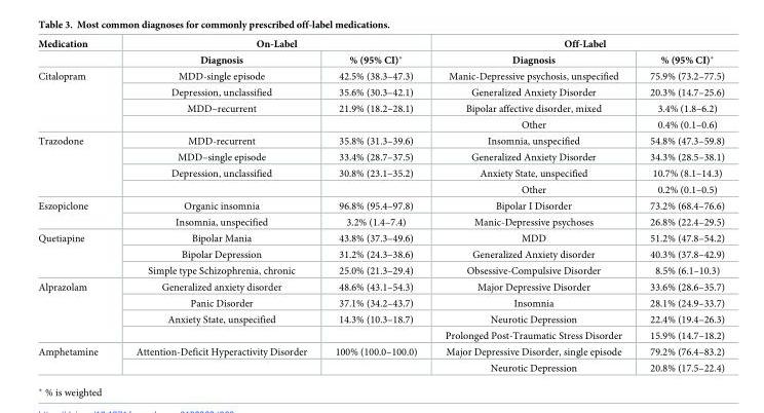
<table><thead><tr><td rowspan="2">Medication</td><td colspan="2">On-Label</td><td colspan="2">Off-Label</td></tr><tr><td>Diagnosis</td><td>% (95% CI)*</td><td>Diagnosis</td><td>% (95% CI)*</td></tr></thead><tbody><tr><td rowspan="4">Citalopram</td><td>MDD-single episode</td><td>42.5% (38.3–47.3)</td><td>Manic-Depressive psychosis, unspecified</td><td>75.9% (73.2–77.5)</td></tr><tr><td>Depression, unclassified</td><td>35.6% (30.3–42.1)</td><td>Generalized Anxiety Disorder</td><td>20.3% (14.7–25.6)</td></tr><tr><td>MDD–recurrent</td><td>21.9% (18.2–28.1)</td><td>Bipolar affective disorder, mixed</td><td>3.4% (1.8–6.2)</td></tr><tr><td></td><td></td><td>Other</td><td>0.4% (0.1–0.6)</td></tr><tr><td rowspan="4">Trazodone</td><td>MDD-recurrent</td><td>35.8% (31.3–39.6)</td><td>Insomnia, unspecified</td><td>54.8% (47.3–59.8)</td></tr><tr><td>MDD–single episode</td><td>33.4% (28.7–37.5)</td><td>Generalized Anxiety Disorder</td><td>34.3% (28.5–38.1)</td></tr><tr><td>Depression, unclassified</td><td>30.8% (23.1–35.2)</td><td>Anxiety State, unspecified</td><td>10.7% (8.1–14.3)</td></tr><tr><td></td><td></td><td>Other</td><td>0.2% (0.1–0.5)</td></tr><tr><td rowspan="2">Eszopiclone</td><td>Organic insomnia</td><td>96.8% (95.4–97.8)</td><td>Bipolar I Disorder</td><td>73.2% (68.4–76.6)</td></tr><tr><td>Insomnia, unspecified</td><td>3.2% (1.4–7.4)</td><td>Manic-Depressive psychoses</td><td>26.8% (22.4–29.5)</td></tr><tr><td rowspan="3">Quetiapine</td><td>Bipolar Mania</td><td>43.8% (37.3–49.6)</td><td>MDD</td><td>51.2% (47.8–54.2)</td></tr><tr><td>Bipolar Depression</td><td>31.2% (24.3–38.6)</td><td>Generalized Anxiety disorder</td><td>40.3% (37.8–42.9)</td></tr><tr><td>Simple type Schizophrenia, chronic</td><td>25.0% (21.3–29.4)</td><td>Obsessive-Compulsive Disorder</td><td>8.5% (6.1–10.3)</td></tr><tr><td rowspan="4">Alprazolam</td><td>Generalized anxiety disorder</td><td>48.6% (43.1–54.3)</td><td>Major Depressive Disorder</td><td>33.6% (28.6–35.7)</td></tr><tr><td>Panic Disorder</td><td>37.1% (34.2–43.7)</td><td>Insomnia</td><td>28.1% (24.9–33.7)</td></tr><tr><td>Anxiety State, unspecified</td><td>14.3% (10.3–18.7)</td><td>Neurotic Depression</td><td>22.4% (19.4–26.3)</td></tr><tr><td></td><td></td><td>Prolonged Post-Traumatic Stress Disorder</td><td>15.9% (14.7–18.2)</td></tr><tr><td rowspan="2">Amphetamine</td><td>Attention-Deficit Hyperactivity Disorder</td><td>100% (100.0–100.0)</td><td>Major Depressive Disorder, single episode</td><td>79.2% (76.4–83.2)</td></tr><tr><td></td><td></td><td>Neurotic Depression</td><td>20.8% (17.5–22.4)</td></tr></tbody></table>